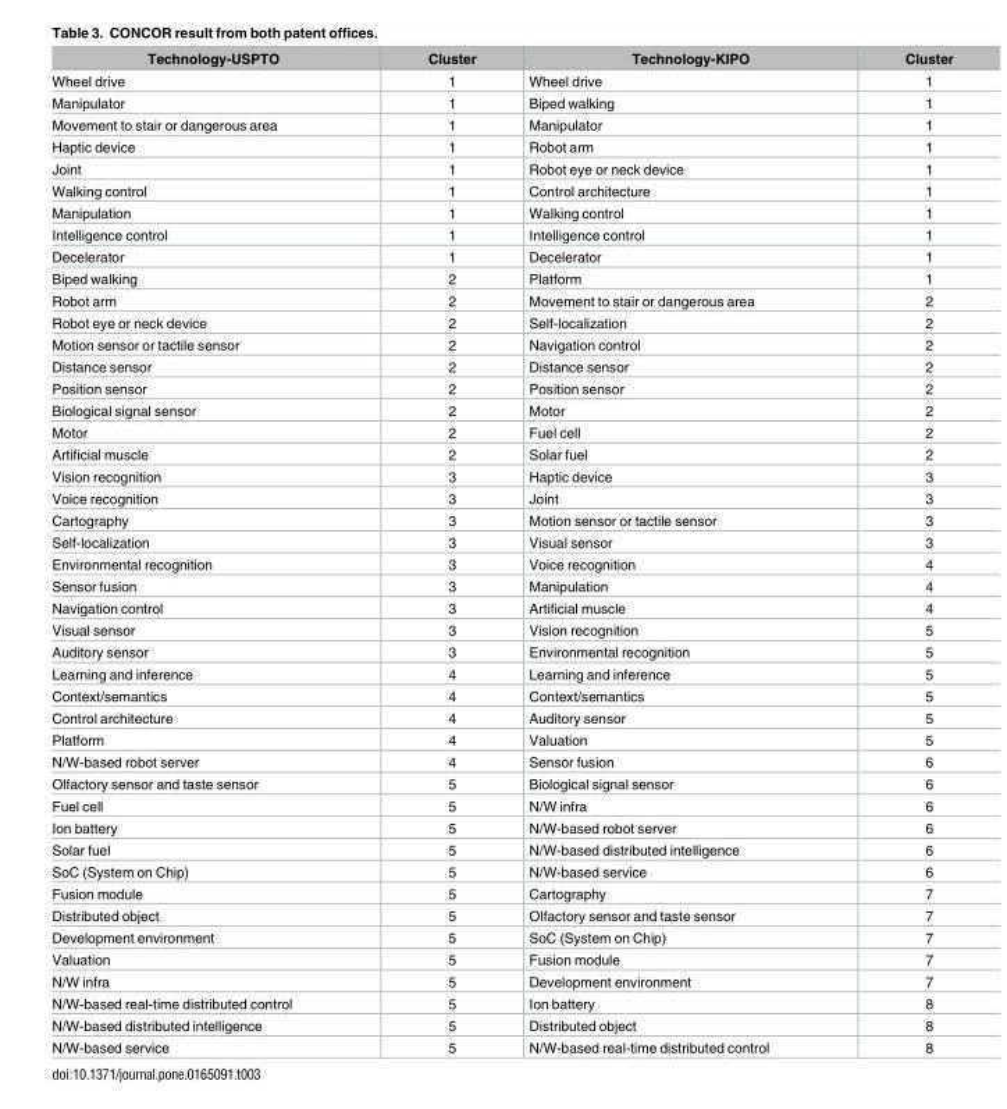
<table><thead><tr><td>Technology-USPTO</td><td>Cluster</td><td>Technology-KIPO</td><td>Cluster</td></tr></thead><tbody><tr><td>Wheel drive</td><td>1</td><td>Wheel drive</td><td>1</td></tr><tr><td>Manipulator</td><td>1</td><td>Biped walking</td><td>1</td></tr><tr><td>Movement to stair or dangerous area</td><td>1</td><td>Manipulator</td><td>1</td></tr><tr><td>Haptic device</td><td>1</td><td>Robot arm</td><td>1</td></tr><tr><td>Joint</td><td>1</td><td>Robot eye or neck device</td><td>1</td></tr><tr><td>Walking control</td><td>1</td><td>Control architecture</td><td>1</td></tr><tr><td>Manipulation</td><td>1</td><td>Walking control</td><td>1</td></tr><tr><td>Intelligence control</td><td>1</td><td>Intelligence control</td><td>1</td></tr><tr><td>Decelerator</td><td>1</td><td>Decelerator</td><td>1</td></tr><tr><td>Biped walking</td><td>2</td><td>Platform</td><td>1</td></tr><tr><td>Robot arm</td><td>2</td><td>Movement to stair or dangerous area</td><td>2</td></tr><tr><td>Robot eye or neck device</td><td>2</td><td>Self-localization</td><td>2</td></tr><tr><td>Motion sensor or tactile sensor</td><td>2</td><td>Navigation control</td><td>2</td></tr><tr><td>Distance sensor</td><td>2</td><td>Distance sensor</td><td>2</td></tr><tr><td>Position sensor</td><td>2</td><td>Position sensor</td><td>2</td></tr><tr><td>Biological signal sensor</td><td>2</td><td>Motor</td><td>2</td></tr><tr><td>Motor</td><td>2</td><td>Fuel cell</td><td>2</td></tr><tr><td>Artificial muscle</td><td>2</td><td>Solar fuel</td><td>2</td></tr><tr><td>Vision recognition</td><td>3</td><td>Haptic device</td><td>3</td></tr><tr><td>Voice recognition</td><td>3</td><td>Joint</td><td>3</td></tr><tr><td>Cartography</td><td>3</td><td>Motion sensor or tactile sensor</td><td>3</td></tr><tr><td>Self-localization</td><td>3</td><td>Visual sensor</td><td>3</td></tr><tr><td>Environmental recognition</td><td>3</td><td>Voice recognition</td><td>4</td></tr><tr><td>Sensor fusion</td><td>3</td><td>Manipulation</td><td>4</td></tr><tr><td>Navigation control</td><td>3</td><td>Artificial muscle</td><td>4</td></tr><tr><td>Visual sensor</td><td>3</td><td>Vision recognition</td><td>5</td></tr><tr><td>Auditory sensor</td><td>3</td><td>Environmental recognition</td><td>5</td></tr><tr><td>Learning and inference</td><td>4</td><td>Learning and inference</td><td>5</td></tr><tr><td>Context/semantics</td><td>4</td><td>Context/semantics</td><td>5</td></tr><tr><td>Control architecture</td><td>4</td><td>Auditory sensor</td><td>5</td></tr><tr><td>Platform</td><td>4</td><td>Valuation</td><td>5</td></tr><tr><td>N/W-based robot server</td><td>4</td><td>Sensor fusion</td><td>6</td></tr><tr><td>Olfactory sensor and taste sensor</td><td>5</td><td>Biological signal sensor</td><td>6</td></tr><tr><td>Fuel cell</td><td>5</td><td>N/W infra</td><td>6</td></tr><tr><td>Ion battery</td><td>5</td><td>N/W-based robot server</td><td>6</td></tr><tr><td>Solar fuel</td><td>5</td><td>N/W-based distributed intelligence</td><td>6</td></tr><tr><td>SoC (System on Chip)</td><td>5</td><td>N/W-based service</td><td>6</td></tr><tr><td>Fusion module</td><td>5</td><td>Cartography</td><td>7</td></tr><tr><td>Distributed object</td><td>5</td><td>Olfactory sensor and taste sensor</td><td>7</td></tr><tr><td>Development environment</td><td>5</td><td>SoC (System on Chip)</td><td>7</td></tr><tr><td>Valuation</td><td>5</td><td>Fusion module</td><td>7</td></tr><tr><td>N/W infra</td><td>5</td><td>Development environment</td><td>7</td></tr><tr><td>N/W-based real-time distributed control</td><td>5</td><td>Ion battery</td><td>8</td></tr><tr><td>N/W-based distributed intelligence</td><td>5</td><td>Distributed object</td><td>8</td></tr><tr><td>N/W-based service</td><td>5</td><td>N/W-based real-time distributed control</td><td>8</td></tr></tbody></table>